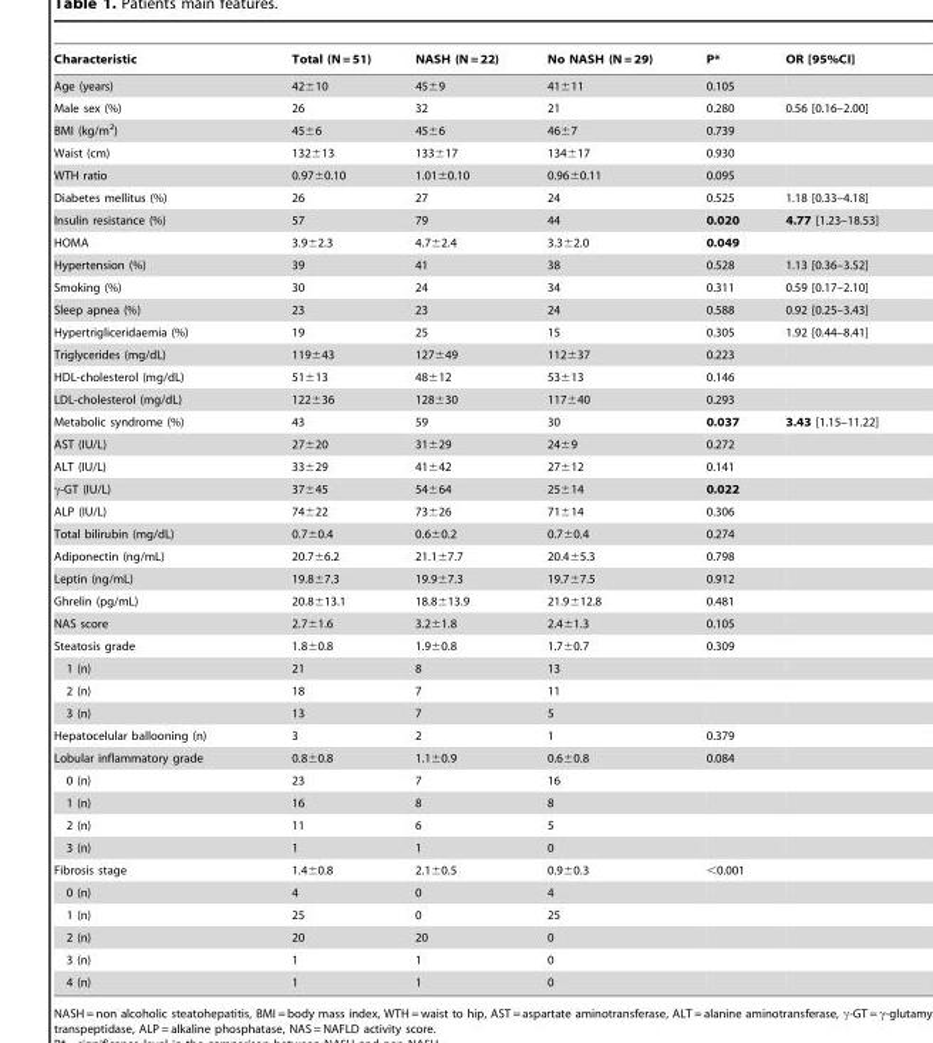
<table><thead><tr><td>Characteristic</td><td>Total (N = 51)</td><td>NASH (N = 22)</td><td>No NASH (N = 29)</td><td>P*</td><td>OR [95%CI]</td></tr></thead><tbody><tr><td>Age (years)</td><td>42±10</td><td>45±9</td><td>41±11</td><td>0.105</td><td></td></tr><tr><td>Male sex (%)</td><td>26</td><td>32</td><td>21</td><td>0.280</td><td>0.56 [0.16–2.00]</td></tr><tr><td>BMI (kg/m<sup>2</sup>)</td><td>45±6</td><td>45±6</td><td>46±7</td><td>0.739</td><td></td></tr><tr><td>Waist (cm)</td><td>132±13</td><td>133±17</td><td>134±17</td><td>0.930</td><td></td></tr><tr><td>WTH ratio</td><td>0.97±0.10</td><td>1.01±0.10</td><td>0.96±0.11</td><td>0.095</td><td></td></tr><tr><td>Diabetes mellitus (%)</td><td>26</td><td>27</td><td>24</td><td>0.525</td><td>1.18 [0.33–4.18]</td></tr><tr><td>Insulin resistance (%)</td><td>57</td><td>79</td><td>44</td><td>0.020</td><td>4.77 [1.23–18.53]</td></tr><tr><td>HOMA</td><td>3.9±2.3</td><td>4.7±2.4</td><td>3.3±2.0</td><td>0.049</td><td></td></tr><tr><td>Hypertension (%)</td><td>39</td><td>41</td><td>38</td><td>0.528</td><td>1.13 [0.36–3.52]</td></tr><tr><td>Smoking (%)</td><td>30</td><td>24</td><td>34</td><td>0.311</td><td>0.59 [0.17–2.10]</td></tr><tr><td>Sleep apnea (%)</td><td>23</td><td>23</td><td>24</td><td>0.588</td><td>0.92 [0.25–3.43]</td></tr><tr><td>Hypertrigliceridaemia (%)</td><td>19</td><td>25</td><td>15</td><td>0.305</td><td>1.92 [0.44–8.41]</td></tr><tr><td>Triglycerides (mg/dL)</td><td>119±43</td><td>127±49</td><td>112±37</td><td>0.223</td><td></td></tr><tr><td>HDL-cholesterol (mg/dL)</td><td>51±13</td><td>48±12</td><td>53±13</td><td>0.146</td><td></td></tr><tr><td>LDL-cholesterol (mg/dL)</td><td>122±36</td><td>128±30</td><td>117±40</td><td>0.293</td><td></td></tr><tr><td>Metabolic syndrome (%)</td><td>43</td><td>59</td><td>30</td><td>0.037</td><td>3.43 [1.15–11.22]</td></tr><tr><td>AST (IU/L)</td><td>27±20</td><td>31±29</td><td>24±9</td><td>0.272</td><td></td></tr><tr><td>ALT (IU/L)</td><td>33±29</td><td>41±42</td><td>27±12</td><td>0.141</td><td></td></tr><tr><td>γ-GT (IU/L)</td><td>37±45</td><td>54±64</td><td>25±14</td><td>0.022</td><td></td></tr><tr><td>ALP (IU/L)</td><td>74±22</td><td>73±26</td><td>71±14</td><td>0.306</td><td></td></tr><tr><td>Total bilirubin (mg/dL)</td><td>0.7±0.4</td><td>0.6±0.2</td><td>0.7±0.4</td><td>0.274</td><td></td></tr><tr><td>Adiponectin (ng/mL)</td><td>20.7±6.2</td><td>21.1±7.7</td><td>20.4±5.3</td><td>0.798</td><td></td></tr><tr><td>Leptin (ng/mL)</td><td>19.8±7.3</td><td>19.9±7.3</td><td>19.7±7.5</td><td>0.912</td><td></td></tr><tr><td>Ghrelin (pg/mL)</td><td>20.8±13.1</td><td>18.8±13.9</td><td>21.9±12.8</td><td>0.481</td><td></td></tr><tr><td>NAS score</td><td>2.7±1.6</td><td>3.2±1.8</td><td>2.4±1.3</td><td>0.105</td><td></td></tr><tr><td>Steatosis grade</td><td>1.8±0.8</td><td>1.9±0.8</td><td>1.7±0.7</td><td>0.309</td><td></td></tr><tr><td>1 (n)</td><td>21</td><td>8</td><td>13</td><td></td><td></td></tr><tr><td>2 (n)</td><td>18</td><td>7</td><td>11</td><td></td><td></td></tr><tr><td>3 (n)</td><td>13</td><td>7</td><td>5</td><td></td><td></td></tr><tr><td>Hepatocelular ballooning (n)</td><td>3</td><td>2</td><td>1</td><td>0.379</td><td></td></tr><tr><td>Lobular inflammatory grade</td><td>0.8±0.8</td><td>1.1±0.9</td><td>0.6±0.8</td><td>0.084</td><td></td></tr><tr><td>0 (n)</td><td>23</td><td>7</td><td>16</td><td></td><td></td></tr><tr><td>1 (n)</td><td>16</td><td>8</td><td>8</td><td></td><td></td></tr><tr><td>2 (n)</td><td>11</td><td>6</td><td>5</td><td></td><td></td></tr><tr><td>3 (n)</td><td>1</td><td>1</td><td>0</td><td></td><td></td></tr><tr><td>Fibrosis stage</td><td>1.4±0.8</td><td>2.1±0.5</td><td>0.9±0.3</td><td>&lt;0.001</td><td></td></tr><tr><td>0 (n)</td><td>4</td><td>0</td><td>4</td><td></td><td></td></tr><tr><td>1 (n)</td><td>25</td><td>0</td><td>25</td><td></td><td></td></tr><tr><td>2 (n)</td><td>20</td><td>20</td><td>0</td><td></td><td></td></tr><tr><td>3 (n)</td><td>1</td><td>1</td><td>0</td><td></td><td></td></tr><tr><td>4 (n)</td><td>1</td><td>1</td><td>0</td><td></td><td></td></tr></tbody></table>